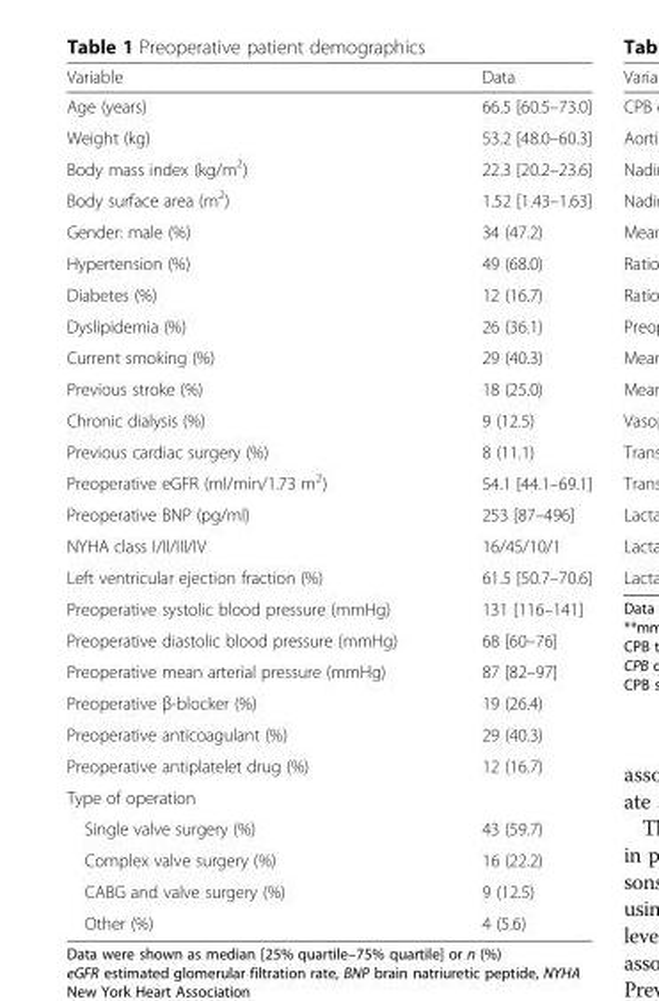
<table><thead><tr><td>Variable</td><td>Data</td></tr></thead><tbody><tr><td>Age (years)</td><td>66.5 [60.5–73.0]</td></tr><tr><td>Weight (kg)</td><td>53.2 [48.0–60.3]</td></tr><tr><td>Body mass index (kg/m<sup>2</sup>)</td><td>22.3 [20.2–23.6]</td></tr><tr><td>Body surface area (m<sup>2</sup>)</td><td>1.52 [1.43–1.63]</td></tr><tr><td>Gender: male (%)</td><td>34 (47.2)</td></tr><tr><td>Hypertension (%)</td><td>49 (68.0)</td></tr><tr><td>Diabetes (%)</td><td>12 (16.7)</td></tr><tr><td>Dyslipidemia (%)</td><td>26 (36.1)</td></tr><tr><td>Current smoking (%)</td><td>29 (40.3)</td></tr><tr><td>Previous stroke (%)</td><td>18 (25.0)</td></tr><tr><td>Chronic dialysis (%)</td><td>9 (12.5)</td></tr><tr><td>Previous cardiac surgery (%)</td><td>8 (11.1)</td></tr><tr><td>Preoperative eGFR (ml/min/1.73 m<sup>2</sup>)</td><td>54.1 [44.1–69.1]</td></tr><tr><td>Preoperative BNP (pg/ml)</td><td>253 [87–496]</td></tr><tr><td>NYHA class I/II/III/IV</td><td>16/45/10/1</td></tr><tr><td>Left ventricular ejection fraction (%)</td><td>61.5 [50.7–70.6]</td></tr><tr><td>Preoperative systolic blood pressure (mmHg)</td><td>131 [116–141]</td></tr><tr><td>Preoperative diastolic blood pressure (mmHg)</td><td>68 [60–76]</td></tr><tr><td>Preoperative mean arterial pressure (mmHg)</td><td>87 [82–97]</td></tr><tr><td>Preoperative β-blocker (%)</td><td>19 (26.4)</td></tr><tr><td>Preoperative anticoagulant (%)</td><td>29 (40.3)</td></tr><tr><td>Preoperative antiplatelet drug (%)</td><td>12 (16.7)</td></tr><tr><td colspan="2">Type of operation</td></tr><tr><td>Single valve surgery (%)</td><td>43 (59.7)</td></tr><tr><td>Complex valve surgery (%)</td><td>16 (22.2)</td></tr><tr><td>CABG and valve surgery (%)</td><td>9 (12.5)</td></tr><tr><td>Other (%)</td><td>4 (5.6)</td></tr></tbody></table>